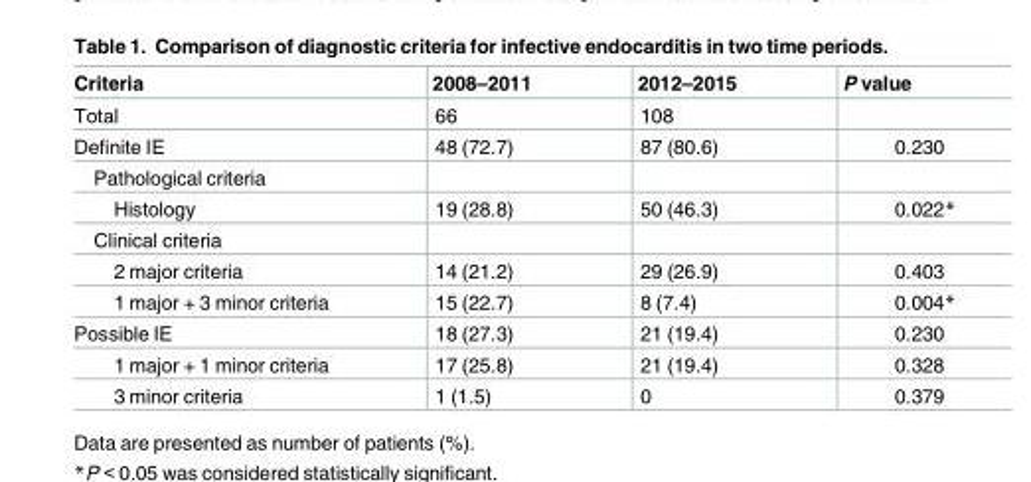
<table><thead><tr><td>Criteria</td><td>2008–2011</td><td>2012–2015</td><td>P value</td></tr></thead><tbody><tr><td>Total</td><td>66</td><td>108</td><td></td></tr><tr><td>Definite IE</td><td>48 (72.7)</td><td>87 (80.6)</td><td>0.230</td></tr><tr><td colspan="4">Pathological criteria</td></tr><tr><td>Histology</td><td>19 (28.8)</td><td>50 (46.3)</td><td>0.022*</td></tr><tr><td colspan="4">Clinical criteria</td></tr><tr><td>2 major criteria</td><td>14 (21.2)</td><td>29 (26.9)</td><td>0.403</td></tr><tr><td>1 major + 3 minor criteria</td><td>15 (22.7)</td><td>8 (7.4)</td><td>0.004*</td></tr><tr><td>Possible IE</td><td>18 (27.3)</td><td>21 (19.4)</td><td>0.230</td></tr><tr><td>1 major + 1 minor criteria</td><td>17 (25.8)</td><td>21 (19.4)</td><td>0.328</td></tr><tr><td>3 minor criteria</td><td>1 (1.5)</td><td>0</td><td>0.379</td></tr></tbody></table>